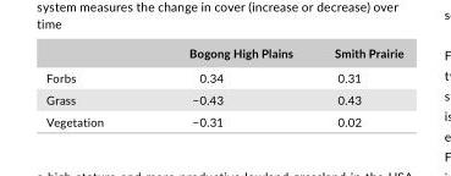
<table><thead><tr><td></td><td>Bogong High Plains</td><td>Smith Prairie</td></tr></thead><tbody><tr><td>Forbs</td><td>0.34</td><td>0.31</td></tr><tr><td>Grass</td><td>−0.43</td><td>0.43</td></tr><tr><td>Vegetation</td><td>−0.31</td><td>0.02</td></tr></tbody></table>